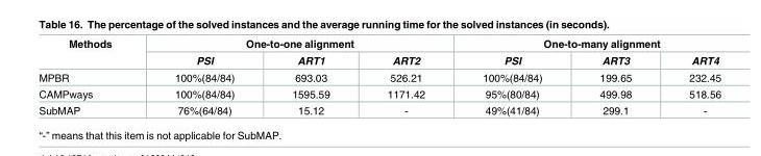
<table><thead><tr><td rowspan="2">Methods</td><td colspan="3">One-to-one alignment</td><td colspan="3">One-to-many alignment</td></tr><tr><td>PSI</td><td>ART1</td><td>ART2</td><td>PSI</td><td>ART3</td><td>ART4</td></tr></thead><tbody><tr><td>MPBR</td><td>100%(84/84)</td><td>693.03</td><td>526.21</td><td>100%(84/84)</td><td>199.65</td><td>232.45</td></tr><tr><td>CAMPways</td><td>100%(84/84)</td><td>1595.59</td><td>1171.42</td><td>95%(80/84)</td><td>499.98</td><td>518.56</td></tr><tr><td>SubMAP</td><td>76%(64/84)</td><td>15.12</td><td>-</td><td>49%(41/84)</td><td>299.1</td><td>-</td></tr></tbody></table>